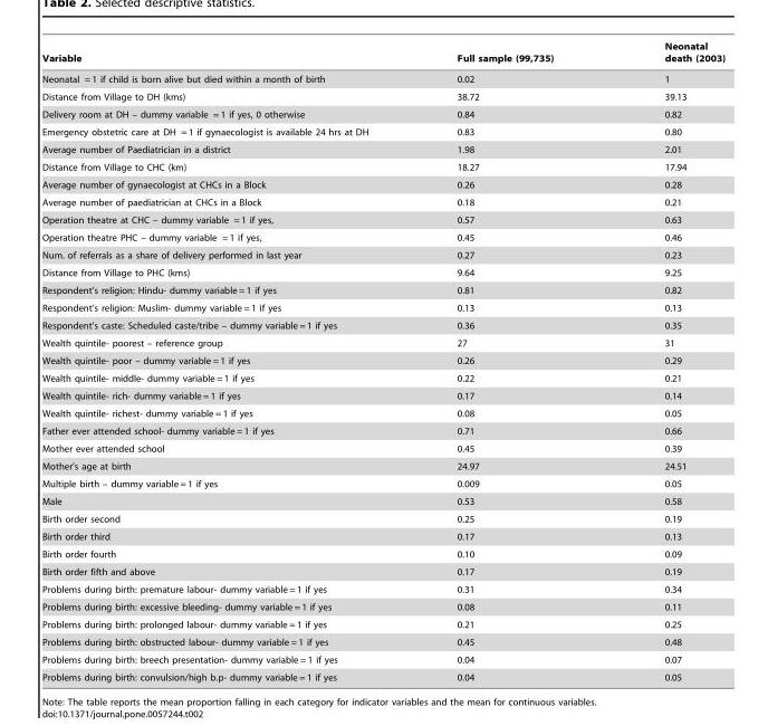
<table><thead><tr><td>Variable</td><td>Full sample (99,735)</td><td>Neonatal death (2003)</td></tr></thead><tbody><tr><td>Neonatal = 1 if child is born alive but died within a month of birth</td><td>0.02</td><td>1</td></tr><tr><td>Distance from Village to DH (kms)</td><td>38.72</td><td>39.13</td></tr><tr><td>Delivery room at DH – dummy variable = 1 if yes, 0 otherwise</td><td>0.84</td><td>0.82</td></tr><tr><td>Emergency obstetric care at DH = 1 if gynaecologist is available 24 hrs at DH</td><td>0.83</td><td>0.80</td></tr><tr><td>Average number of Paediatrician in a district</td><td>1.98</td><td>2.01</td></tr><tr><td>Distance from Village to CHC (km)</td><td>18.27</td><td>17.94</td></tr><tr><td>Average number of gynaecologist at CHCs in a Block</td><td>0.26</td><td>0.28</td></tr><tr><td>Average number of paediatrician at CHCs in a Block</td><td>0.18</td><td>0.21</td></tr><tr><td>Operation theatre at CHC – dummy variable = 1 if yes,</td><td>0.57</td><td>0.63</td></tr><tr><td>Operation theatre PHC – dummy variable = 1 if yes,</td><td>0.45</td><td>0.46</td></tr><tr><td>Num. of referrals as a share of delivery performed in last year</td><td>0.27</td><td>0.23</td></tr><tr><td>Distance from Village to PHC (kms)</td><td>9.64</td><td>9.25</td></tr><tr><td>Respondent’s religion: Hindu- dummy variable = 1 if yes</td><td>0.81</td><td>0.82</td></tr><tr><td>Respondent’s religion: Muslim- dummy variable = 1 if yes</td><td>0.13</td><td>0.13</td></tr><tr><td>Respondent’s caste: Scheduled caste/tribe – dummy variable = 1 if yes</td><td>0.36</td><td>0.35</td></tr><tr><td>Wealth quintile- poorest – reference group</td><td>27</td><td>31</td></tr><tr><td>Wealth quintile- poor – dummy variable = 1 if yes</td><td>0.26</td><td>0.29</td></tr><tr><td>Wealth quintile- middle- dummy variable = 1 if yes</td><td>0.22</td><td>0.21</td></tr><tr><td>Wealth quintile- rich- dummy variable = 1 if yes</td><td>0.17</td><td>0.14</td></tr><tr><td>Wealth quintile- richest- dummy variable = 1 if yes</td><td>0.08</td><td>0.05</td></tr><tr><td>Father ever attended school- dummy variable = 1 if yes</td><td>0.71</td><td>0.66</td></tr><tr><td>Mother ever attended school</td><td>0.45</td><td>0.39</td></tr><tr><td>Mother’s age at birth</td><td>24.97</td><td>24.51</td></tr><tr><td>Multiple birth – dummy variable = 1 if yes</td><td>0.009</td><td>0.05</td></tr><tr><td>Male</td><td>0.53</td><td>0.58</td></tr><tr><td>Birth order second</td><td>0.25</td><td>0.19</td></tr><tr><td>Birth order third</td><td>0.17</td><td>0.13</td></tr><tr><td>Birth order fourth</td><td>0.10</td><td>0.09</td></tr><tr><td>Birth order fifth and above</td><td>0.17</td><td>0.19</td></tr><tr><td>Problems during birth: premature labour- dummy variable = 1 if yes</td><td>0.31</td><td>0.34</td></tr><tr><td>Problems during birth: excessive bleeding- dummy variable = 1 if yes</td><td>0.08</td><td>0.11</td></tr><tr><td>Problems during birth: prolonged labour- dummy variable = 1 if yes</td><td>0.21</td><td>0.25</td></tr><tr><td>Problems during birth: obstructed labour- dummy variable = 1 if yes</td><td>0.45</td><td>0.48</td></tr><tr><td>Problems during birth: breech presentation- dummy variable = 1 if yes</td><td>0.04</td><td>0.07</td></tr><tr><td>Problems during birth: convulsion/high b.p- dummy variable = 1 if yes</td><td>0.04</td><td>0.05</td></tr></tbody></table>